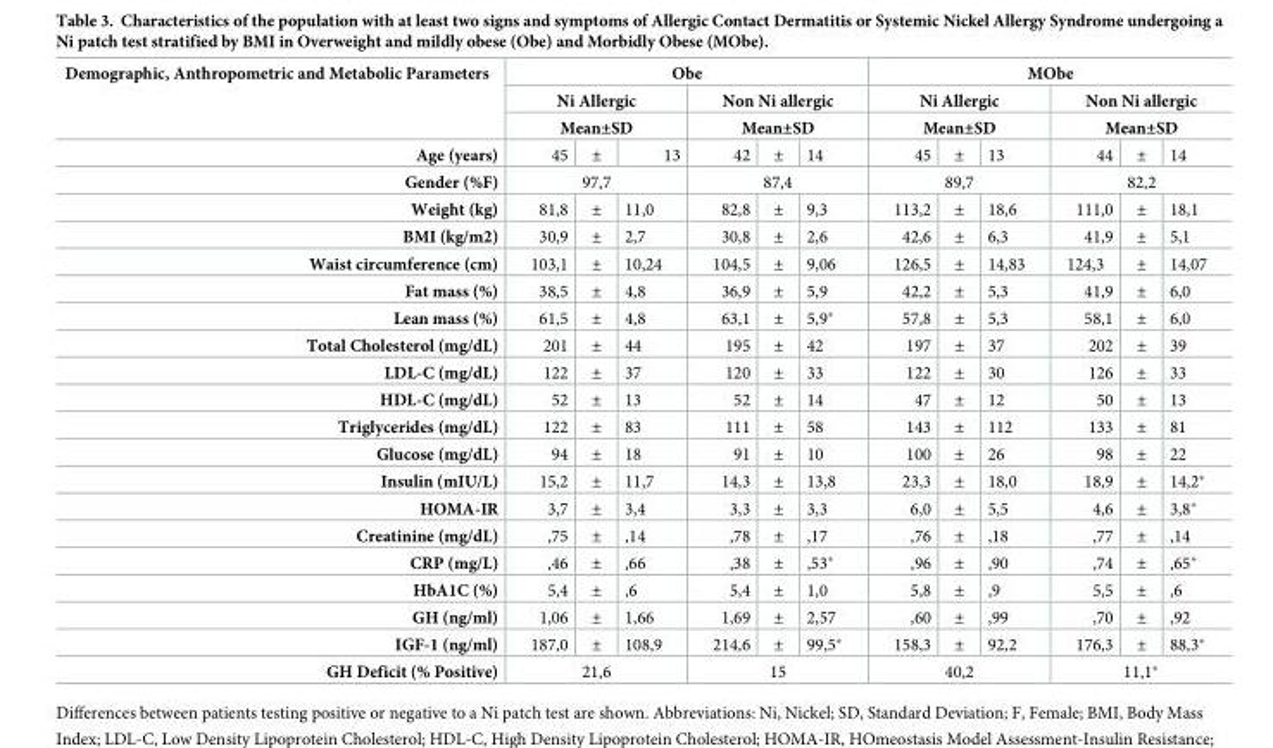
<table><thead><tr><td rowspan="4">Demographic, Anthropometric and Metabolic Parameters Age (years)</td><td colspan="6">Obe</td><td colspan="6">MObe</td></tr><tr><td rowspan="2" colspan="3">Ni Allergic Mean±SD</td><td rowspan="2" colspan="3">Non Ni allergic Mean±SD</td><td rowspan="2" colspan="3">Ni Allergic Mean±SD</td><td rowspan="2" colspan="3">Non Ni allergic Mean±SD</td></tr><tr></tr><tr><td>45</td><td>±</td><td>13</td><td>42</td><td>±</td><td>14</td><td>45</td><td>±</td><td>13</td><td>44</td><td>±</td><td>14</td></tr></thead><tbody><tr><td>Gender (%F)</td><td colspan="3">97,7</td><td colspan="3">87,4</td><td colspan="3">89,7</td><td colspan="3">82,2</td></tr><tr><td>Weight (kg)</td><td>81,8</td><td>±</td><td>11,0</td><td>82,8</td><td>±</td><td>9,3</td><td>113,2</td><td>±</td><td>18,6</td><td>111,0</td><td>±</td><td>18,1</td></tr><tr><td>BMI (kg/m2)</td><td>30,9</td><td>±</td><td>2,7</td><td>30,8</td><td>±</td><td>2,6</td><td>42,6</td><td>±</td><td>6,3</td><td>41,9</td><td>±</td><td>5,1</td></tr><tr><td>Waist circumference (cm)</td><td>103,1</td><td>±</td><td>10,24</td><td>104,5</td><td>±</td><td>9,06</td><td>126,5</td><td>±</td><td>14,83</td><td>124,3</td><td>±</td><td>14,07</td></tr><tr><td>Fat mass (%)</td><td>38,5</td><td>±</td><td>4,8</td><td>36,9</td><td>±</td><td>5,9</td><td>42,2</td><td>±</td><td>5,3</td><td>41,9</td><td>±</td><td>6,0</td></tr><tr><td>Lean mass (%)</td><td>61,5</td><td>±</td><td>4,8</td><td>63,1</td><td>±</td><td>5,9*</td><td>57,8</td><td>±</td><td>5,3</td><td>58,1</td><td>±</td><td>6,0</td></tr><tr><td>Total Cholesterol (mg/dL)</td><td>201</td><td>±</td><td>44</td><td>195</td><td>±</td><td>42</td><td>197</td><td>±</td><td>37</td><td>202</td><td>±</td><td>39</td></tr><tr><td>LDL-C (mg/dL)</td><td>122</td><td>±</td><td>37</td><td>120</td><td>±</td><td>33</td><td>122</td><td>±</td><td>30</td><td>126</td><td>±</td><td>33</td></tr><tr><td>HDL-C (mg/dL)</td><td>52</td><td>±</td><td>13</td><td>52</td><td>±</td><td>14</td><td>47</td><td>±</td><td>12</td><td>50</td><td>±</td><td>13</td></tr><tr><td>Triglycerides (mg/dL)</td><td>122</td><td>±</td><td>83</td><td>111</td><td>±</td><td>58</td><td>143</td><td>±</td><td>112</td><td>133</td><td>±</td><td>81</td></tr><tr><td>Glucose (mg/dL)</td><td>94</td><td>±</td><td>18</td><td>91</td><td>±</td><td>10</td><td>100</td><td>±</td><td>26</td><td>98</td><td>±</td><td>22</td></tr><tr><td>Insulin (mIU/L)</td><td>15,2</td><td>±</td><td>11,7</td><td>14,3</td><td>±</td><td>13,8</td><td>23,3</td><td>±</td><td>18,0</td><td>18,9</td><td>±</td><td>14,2*</td></tr><tr><td>HOMA-IR</td><td>3,7</td><td>±</td><td>3,4</td><td>3,3</td><td>±</td><td>3,3</td><td>6,0</td><td>±</td><td>5,5</td><td>4,6</td><td>±</td><td>3,8*</td></tr><tr><td>Creatinine (mg/dL)</td><td>,75</td><td>±</td><td>,14</td><td>,78</td><td>±</td><td>,17</td><td>,76</td><td>±</td><td>,18</td><td>,77</td><td>±</td><td>,14</td></tr><tr><td>CRP (mg/L)</td><td>,46</td><td>±</td><td>,66</td><td>,38</td><td>±</td><td>,53*</td><td>,96</td><td>±</td><td>,90</td><td>,74</td><td>±</td><td>,65*</td></tr><tr><td>HbA1C (%)</td><td>5,4</td><td>±</td><td>,6</td><td>5,4</td><td>±</td><td>1,0</td><td>5,8</td><td>±</td><td>,9</td><td>5,5</td><td>±</td><td>,6</td></tr><tr><td>GH (ng/ml)</td><td>1,06</td><td>±</td><td>1,66</td><td>1,69</td><td>±</td><td>2,57</td><td>,60</td><td>±</td><td>,99</td><td>,70</td><td>±</td><td>,92</td></tr><tr><td>IGF-1 (ng/ml)</td><td>187,0</td><td>±</td><td>108,9</td><td>214,6</td><td>±</td><td>99,5*</td><td>158,3</td><td>±</td><td>92,2</td><td>176,3</td><td>±</td><td>88,3*</td></tr><tr><td>GH Deficit (% Positive)</td><td colspan="3">21,6</td><td colspan="3">15</td><td colspan="3">40,2</td><td colspan="3">11,1*</td></tr></tbody></table>